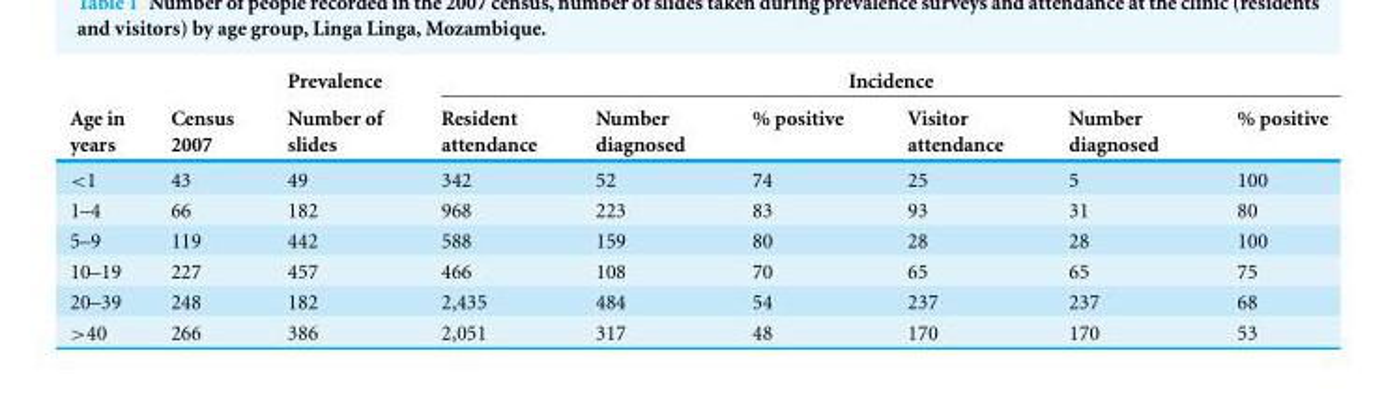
<table><thead><tr><td rowspan="2">Age in years</td><td rowspan="2">Census 2007</td><td rowspan="2">Prevalence Number of slides</td><td colspan="6">Incidence</td></tr><tr><td>Resident attendance</td><td>Number diagnosed</td><td>% positive</td><td>Visitor attendance</td><td>Number diagnosed</td><td>% positive</td></tr></thead><tbody><tr><td>&lt;1</td><td>43</td><td>49</td><td>342</td><td>52</td><td>74</td><td>25</td><td>5</td><td>100</td></tr><tr><td>1–4</td><td>66</td><td>182</td><td>968</td><td>223</td><td>83</td><td>93</td><td>31</td><td>80</td></tr><tr><td>5–9</td><td>119</td><td>442</td><td>588</td><td>159</td><td>80</td><td>28</td><td>28</td><td>100</td></tr><tr><td>10–19</td><td>227</td><td>457</td><td>466</td><td>108</td><td>70</td><td>65</td><td>65</td><td>75</td></tr><tr><td>20–39</td><td>248</td><td>182</td><td>2,435</td><td>484</td><td>54</td><td>237</td><td>237</td><td>68</td></tr><tr><td>&gt;40</td><td>266</td><td>386</td><td>2,051</td><td>317</td><td>48</td><td>170</td><td>170</td><td>53</td></tr></tbody></table>